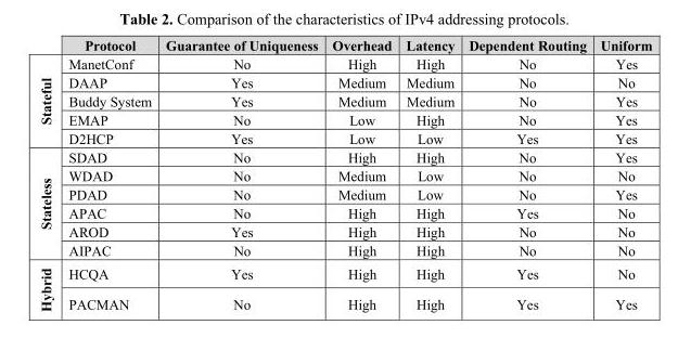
<table><thead><tr><td></td><td>Protocol</td><td>Guarantee of Uniqueness</td><td>Overhead</td><td>Latency</td><td>Dependent Routing</td><td>Uniform</td></tr></thead><tbody><tr><td rowspan="5">Stateful</td><td>ManetConf</td><td>No</td><td>High</td><td>High</td><td>No</td><td>Yes</td></tr><tr><td>DAAP</td><td>Yes</td><td>Medium</td><td>Medium</td><td>No</td><td>No</td></tr><tr><td>Buddy System</td><td>Yes</td><td>Medium</td><td>Medium</td><td>No</td><td>Yes</td></tr><tr><td>EMAP</td><td>No</td><td>Low</td><td>High</td><td>No</td><td>Yes</td></tr><tr><td>D2HCP</td><td>Yes</td><td>Low</td><td>Low</td><td>Yes</td><td>Yes</td></tr><tr><td rowspan="6">Stateless</td><td>SDAD</td><td>No</td><td>High</td><td>High</td><td>No</td><td>Yes</td></tr><tr><td>WDAD</td><td>No</td><td>Medium</td><td>Low</td><td>No</td><td>No</td></tr><tr><td>PDAD</td><td>No</td><td>Medium</td><td>Low</td><td>No</td><td>Yes</td></tr><tr><td>APAC</td><td>No</td><td>High</td><td>High</td><td>Yes</td><td>No</td></tr><tr><td>AROD</td><td>Yes</td><td>High</td><td>High</td><td>No</td><td>No</td></tr><tr><td>AIPAC</td><td>No</td><td>High</td><td>High</td><td>No</td><td>No</td></tr><tr><td rowspan="2">Hybrid</td><td>HCQA</td><td>Yes</td><td>High</td><td>High</td><td>Yes</td><td>No</td></tr><tr><td>PACMAN</td><td>No</td><td>High</td><td>High</td><td>Yes</td><td>Yes</td></tr></tbody></table>